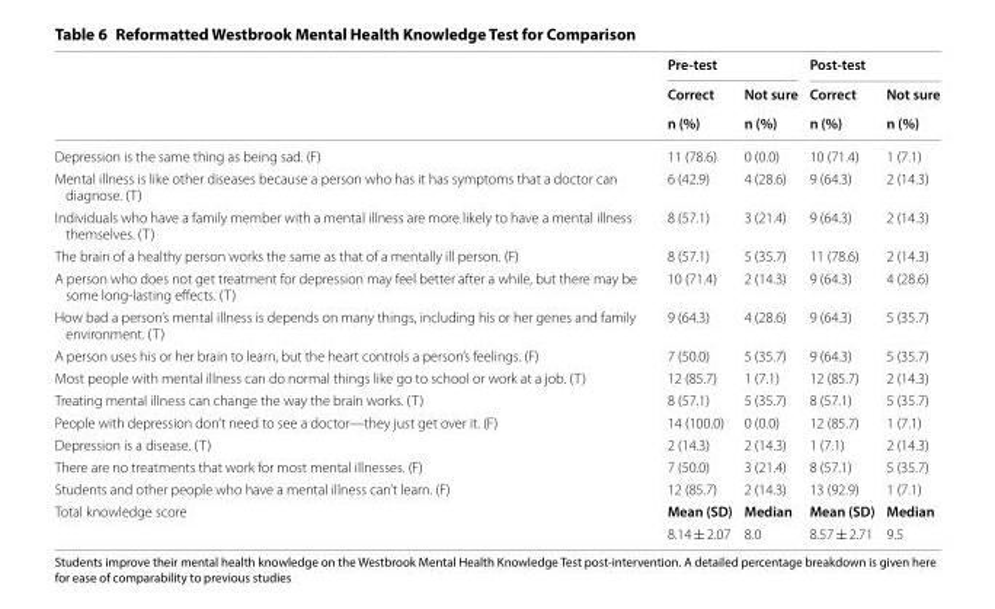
<table><thead><tr><td rowspan="3"></td><td colspan="2">Pre-test</td><td colspan="2">Post-test</td></tr><tr><td rowspan="2">Correct n (%)</td><td rowspan="2">Not sure n (%)</td><td rowspan="2">Correct n (%)</td><td rowspan="2">Not sure n (%)</td></tr><tr></tr></thead><tbody><tr><td>Depression is the same thing as being sad. (F)</td><td>11 (78.6)</td><td>0 (0.0)</td><td>10 (71.4)</td><td>1 (7.1)</td></tr><tr><td>Mental illness is like other diseases because a person who has it has symptoms that a doctor can diagnose. (T)</td><td>6 (42.9)</td><td>4 (28.6)</td><td>9 (64.3)</td><td>2 (14.3)</td></tr><tr><td>Individuals who have a family member with a mental illness are more likely to have a mental illness themselves. (T)</td><td>8 (57.1)</td><td>3 (21.4)</td><td>9 (64.3)</td><td>2 (14.3)</td></tr><tr><td>The brain of a healthy person works the same as that of a mentally ill person. (F)</td><td>8 (57.1)</td><td>5 (35.7)</td><td>11 (78.6)</td><td>2 (14.3)</td></tr><tr><td>A person who does not get treatment for depression may feel better after a while, but there may be some long-lasting effects. (T)</td><td>10 (71.4)</td><td>2 (14.3)</td><td>9 (64.3)</td><td>4 (28.6)</td></tr><tr><td>How bad a person’s mental illness is depends on many things, including his or her genes and family environment. (T)</td><td>9 (64.3)</td><td>4 (28.6)</td><td>9 (64.3)</td><td>5 (35.7)</td></tr><tr><td>A person uses his or her brain to learn, but the heart controls a person’s feelings. (F)</td><td>7 (50.0)</td><td>5 (35.7)</td><td>9 (64.3)</td><td>5 (35.7)</td></tr><tr><td>Most people with mental illness can do normal things like go to school or work at a job. (T)</td><td>12 (85.7)</td><td>1 (7.1)</td><td>12 (85.7)</td><td>2 (14.3)</td></tr><tr><td>Treating mental illness can change the way the brain works. (T)</td><td>8 (57.1)</td><td>5 (35.7)</td><td>8 (57.1)</td><td>5 (35.7)</td></tr><tr><td>People with depression don’t need to see a doctor—they just get over it. (F)</td><td>14 (100.0)</td><td>0 (0.0)</td><td>12 (85.7)</td><td>1 (7.1)</td></tr><tr><td>Depression is a disease. (T)</td><td>2 (14.3)</td><td>2 (14.3)</td><td>1 (7.1)</td><td>2 (14.3)</td></tr><tr><td>There are no treatments that work for most mental illnesses. (F)</td><td>7 (50.0)</td><td>3 (21.4)</td><td>8 (57.1)</td><td>5 (35.7)</td></tr><tr><td>Students and other people who have a mental illness can’t learn. (F)</td><td>12 (85.7)</td><td>2 (14.3)</td><td>13 (92.9)</td><td>1 (7.1)</td></tr><tr><td rowspan="2">Total knowledge score</td><td>Mean (SD)</td><td>Median</td><td>Mean (SD)</td><td>Median</td></tr><tr><td>8.14 ± 2.07</td><td>8.0</td><td>8.57 ± 2.71</td><td>9.5</td></tr></tbody></table>